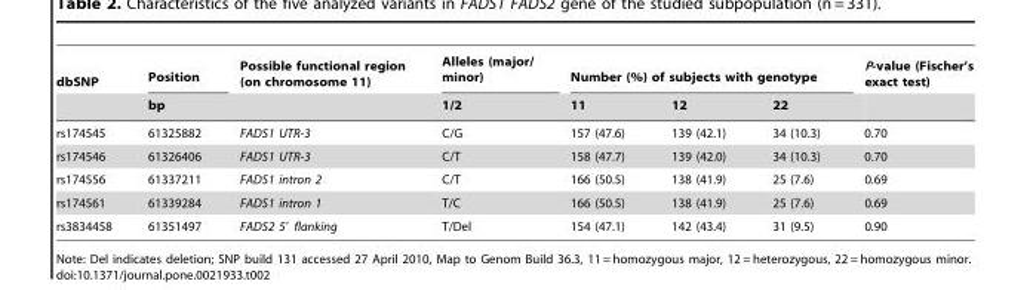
<table><thead><tr><td rowspan="2">dbSNP</td><td rowspan="2">Position bp</td><td rowspan="2">Possible functional region (on chromosome 11)</td><td rowspan="2">Alleles (major/ minor) 1/2</td><td colspan="3">Number (%) of subjects with genotype</td><td rowspan="2">P-value (Fischer’s exact test)</td></tr><tr><td>11</td><td>12</td><td>22</td></tr></thead><tbody><tr><td>rs174545</td><td>61325882</td><td>FADS1 UTR-3</td><td>C/G</td><td>157 (47.6)</td><td>139 (42.1)</td><td>34 (10.3)</td><td>0.70</td></tr><tr><td>rs174546</td><td>61326406</td><td>FADS1 UTR-3</td><td>C/T</td><td>158 (47.7)</td><td>139 (42.0)</td><td>34 (10.3)</td><td>0.70</td></tr><tr><td>rs174556</td><td>61337211</td><td>FADS1 intron 2</td><td>C/T</td><td>166 (50.5)</td><td>138 (41.9)</td><td>25 (7.6)</td><td>0.69</td></tr><tr><td>rs174561</td><td>61339284</td><td>FADS1 intron 1</td><td>T/C</td><td>166 (50.5)</td><td>138 (41.9)</td><td>25 (7.6)</td><td>0.69</td></tr><tr><td>rs3834458</td><td>61351497</td><td>FADS2 5′ flanking</td><td>T/Del</td><td>154 (47.1)</td><td>142 (43.4)</td><td>31 (9.5)</td><td>0.90</td></tr></tbody></table>